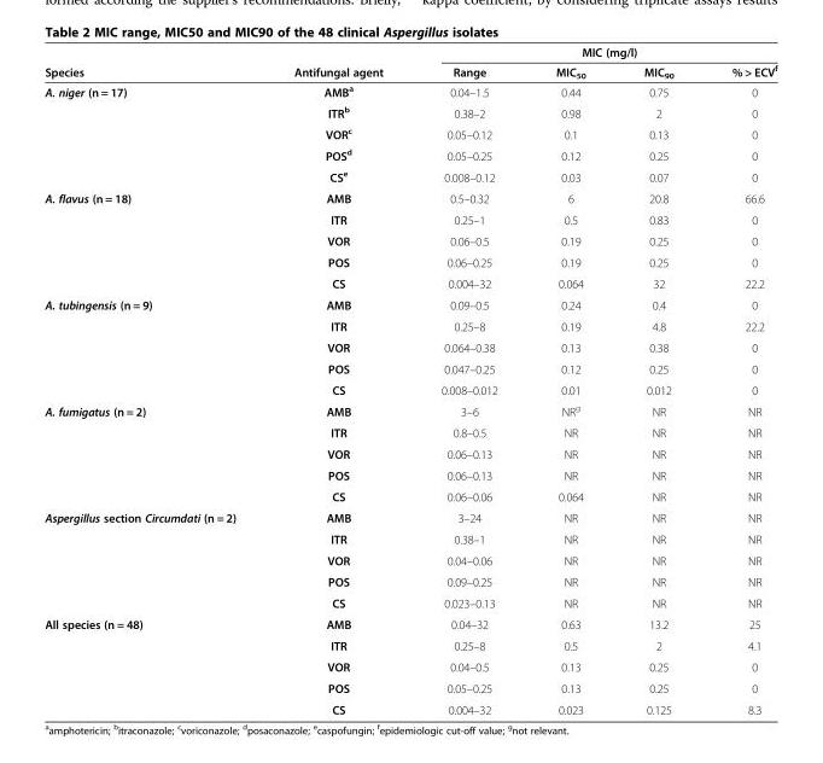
<table><thead><tr><td rowspan="2">Species</td><td rowspan="2">Antifungal agent</td><td colspan="4">MIC (mg/l)</td></tr><tr><td>Range</td><td>MIC<sub>50</sub></td><td>MIC<sub>90</sub></td><td>% &gt; ECV<sup>f</sup></td></tr></thead><tbody><tr><td rowspan="5">A. niger (n = 17)</td><td>AMB<sup>a</sup></td><td>0.04–1.5</td><td>0.44</td><td>0.75</td><td>0</td></tr><tr><td>ITR<sup>b</sup></td><td>0.38–2</td><td>0.98</td><td>2</td><td>0</td></tr><tr><td>VOR<sup>c</sup></td><td>0.05–0.12</td><td>0.1</td><td>0.13</td><td>0</td></tr><tr><td>POS<sup>d</sup></td><td>0.05–0.25</td><td>0.12</td><td>0.25</td><td>0</td></tr><tr><td>CS<sup>e</sup></td><td>0.008–0.12</td><td>0.03</td><td>0.07</td><td>0</td></tr><tr><td rowspan="5">A. flavus (n = 18)</td><td>AMB</td><td>0.5–0.32</td><td>6</td><td>20.8</td><td>66.6</td></tr><tr><td>ITR</td><td>0.25–1</td><td>0.5</td><td>0.83</td><td>0</td></tr><tr><td>VOR</td><td>0.06–0.5</td><td>0.19</td><td>0.25</td><td>0</td></tr><tr><td>POS</td><td>0.06–0.25</td><td>0.19</td><td>0.25</td><td>0</td></tr><tr><td>CS</td><td>0.004–32</td><td>0.064</td><td>32</td><td>22.2</td></tr><tr><td rowspan="5">A. tubingensis (n = 9)</td><td>AMB</td><td>0.09–0.5</td><td>0.24</td><td>0.4</td><td>0</td></tr><tr><td>ITR</td><td>0.25–8</td><td>0.19</td><td>4.8</td><td>22.2</td></tr><tr><td>VOR</td><td>0.064–0.38</td><td>0.13</td><td>0.38</td><td>0</td></tr><tr><td>POS</td><td>0.047–0.25</td><td>0.12</td><td>0.25</td><td>0</td></tr><tr><td>CS</td><td>0.008–0.012</td><td>0.01</td><td>0.012</td><td>0</td></tr><tr><td rowspan="5">A. fumigatus (n = 2)</td><td>AMB</td><td>3–6</td><td>NR<sup>g</sup></td><td>NR</td><td>NR</td></tr><tr><td>ITR</td><td>0.8–0.5</td><td>NR</td><td>NR</td><td>NR</td></tr><tr><td>VOR</td><td>0.06–0.13</td><td>NR</td><td>NR</td><td>NR</td></tr><tr><td>POS</td><td>0.06–0.13</td><td>NR</td><td>NR</td><td>NR</td></tr><tr><td>CS</td><td>0.06–0.06</td><td>0.064</td><td>NR</td><td>NR</td></tr><tr><td rowspan="5">Aspergillus section Circumdati (n = 2)</td><td>AMB</td><td>3–24</td><td>NR</td><td>NR</td><td>NR</td></tr><tr><td>ITR</td><td>0.38–1</td><td>NR</td><td>NR</td><td>NR</td></tr><tr><td>VOR</td><td>0.04–0.06</td><td>NR</td><td>NR</td><td>NR</td></tr><tr><td>POS</td><td>0.09–0.25</td><td>NR</td><td>NR</td><td>NR</td></tr><tr><td>CS</td><td>0.023–0.13</td><td>NR</td><td>NR</td><td>NR</td></tr><tr><td rowspan="5">All species (n = 48)</td><td>AMB</td><td>0.04–32</td><td>0.63</td><td>13.2</td><td>25</td></tr><tr><td>ITR</td><td>0.25–8</td><td>0.5</td><td>2</td><td>4.1</td></tr><tr><td>VOR</td><td>0.04–0.5</td><td>0.13</td><td>0.25</td><td>0</td></tr><tr><td>POS</td><td>0.05–0.25</td><td>0.13</td><td>0.25</td><td>0</td></tr><tr><td>CS</td><td>0.004–32</td><td>0.023</td><td>0.125</td><td>8.3</td></tr></tbody></table>